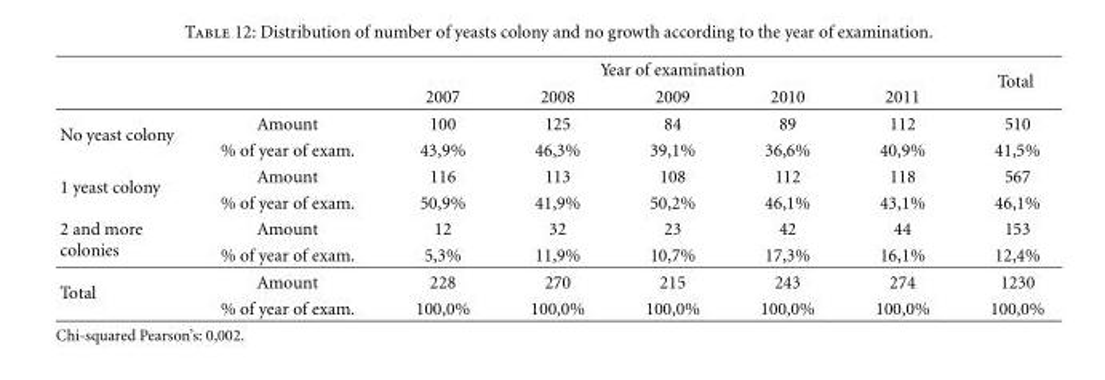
<table><thead><tr><td rowspan="2"></td><td rowspan="2"></td><td colspan="5">Year of examination</td><td rowspan="2">Total</td></tr><tr><td>2007</td><td>2008</td><td>2009</td><td>2010</td><td>2011</td></tr></thead><tbody><tr><td rowspan="2">No yeast colony</td><td>Amount</td><td>100</td><td>125</td><td>84</td><td>89</td><td>112</td><td>510</td></tr><tr><td>% of year of exam.</td><td>43,9%</td><td>46,3%</td><td>39,1%</td><td>36,6%</td><td>40,9%</td><td>41,5%</td></tr><tr><td rowspan="2">1 yeast colony</td><td>Amount</td><td>116</td><td>113</td><td>108</td><td>112</td><td>118</td><td>567</td></tr><tr><td>% of year of exam.</td><td>50,9%</td><td>41,9%</td><td>50,2%</td><td>46,1%</td><td>43,1%</td><td>46,1%</td></tr><tr><td rowspan="2">2 and more colonies</td><td>Amount</td><td>12</td><td>32</td><td>23</td><td>42</td><td>44</td><td>153</td></tr><tr><td>% of year of exam.</td><td>5,3%</td><td>11,9%</td><td>10,7%</td><td>17,3%</td><td>16,1%</td><td>12,4%</td></tr><tr><td rowspan="2">Total</td><td>Amount</td><td>228</td><td>270</td><td>215</td><td>243</td><td>274</td><td>1230</td></tr><tr><td>% of year of exam.</td><td>100,0%</td><td>100,0%</td><td>100,0%</td><td>100,0%</td><td>100,0%</td><td>100,0%</td></tr></tbody></table>